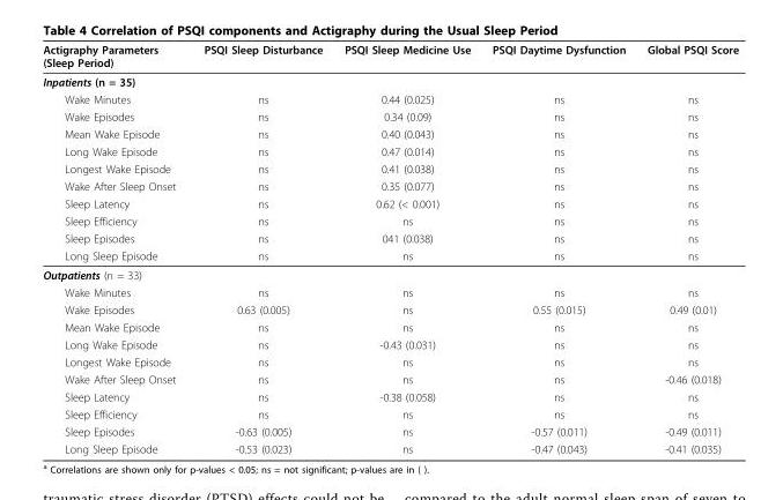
<table><thead><tr><td>Actigraphy Parameters (Sleep Period)</td><td>PSQI Sleep Disturbance</td><td>PSQI Sleep Medicine Use</td><td>PSQI Daytime Dysfunction</td><td>Global PSQI Score</td></tr></thead><tbody><tr><td colspan="5">Inpatients (n = 35)</td></tr><tr><td>Wake Minutes</td><td>ns</td><td>0.44 (0.025)</td><td>ns</td><td>ns</td></tr><tr><td>Wake Episodes</td><td>ns</td><td>0.34 (0.09)</td><td>ns</td><td>ns</td></tr><tr><td>Mean Wake Episode</td><td>ns</td><td>0.40 (0.043)</td><td>ns</td><td>ns</td></tr><tr><td>Long Wake Episode</td><td>ns</td><td>0.47 (0.014)</td><td>ns</td><td>ns</td></tr><tr><td>Longest Wake Episode</td><td>ns</td><td>0.41 (0.038)</td><td>ns</td><td>ns</td></tr><tr><td>Wake After Sleep Onset</td><td>ns</td><td>0.35 (0.077)</td><td>ns</td><td>ns</td></tr><tr><td>Sleep Latency</td><td>ns</td><td>0.62 (&lt; 0.001)</td><td>ns</td><td>ns</td></tr><tr><td>Sleep Efficiency</td><td>ns</td><td>ns</td><td>ns</td><td>ns</td></tr><tr><td>Sleep Episodes</td><td>ns</td><td>041 (0.038)</td><td>ns</td><td>ns</td></tr><tr><td>Long Sleep Episode</td><td>ns</td><td>ns</td><td>ns</td><td>ns</td></tr><tr><td colspan="5">Outpatients (n = 33)</td></tr><tr><td>Wake Minutes</td><td>ns</td><td>ns</td><td>ns</td><td>ns</td></tr><tr><td>Wake Episodes</td><td>0.63 (0.005)</td><td>ns</td><td>0.55 (0.015)</td><td>0.49 (0.01)</td></tr><tr><td>Mean Wake Episode</td><td>ns</td><td>ns</td><td>ns</td><td>ns</td></tr><tr><td>Long Wake Episode</td><td>ns</td><td>-0.43 (0.031)</td><td>ns</td><td>ns</td></tr><tr><td>Longest Wake Episode</td><td>ns</td><td>ns</td><td>ns</td><td>ns</td></tr><tr><td>Wake After Sleep Onset</td><td>ns</td><td>ns</td><td>ns</td><td>-0.46 (0.018)</td></tr><tr><td>Sleep Latency</td><td>ns</td><td>-0.38 (0.058)</td><td>ns</td><td>ns</td></tr><tr><td>Sleep Efficiency</td><td>ns</td><td>ns</td><td>ns</td><td>ns</td></tr><tr><td>Sleep Episodes</td><td>-0.63 (0.005)</td><td>ns</td><td>-0.57 (0.011)</td><td>-0.49 (0.011)</td></tr><tr><td>Long Sleep Episode</td><td>-0.53 (0.023)</td><td>ns</td><td>-0.47 (0.043)</td><td>-0.41 (0.035)</td></tr></tbody></table>